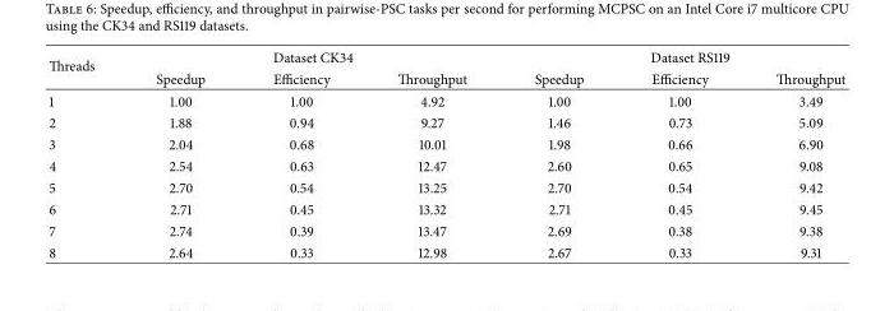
<table><thead><tr><td rowspan="2">Threads</td><td colspan="3">Dataset CK34</td><td colspan="3">Dataset RS119</td></tr><tr><td>Speedup</td><td>Efficiency</td><td>Throughput</td><td>Speedup</td><td>Efficiency</td><td>Throughput</td></tr></thead><tbody><tr><td>1</td><td>1.00</td><td>1.00</td><td>4.92</td><td>1.00</td><td>1.00</td><td>3.49</td></tr><tr><td>2</td><td>1.88</td><td>0.94</td><td>9.27</td><td>1.46</td><td>0.73</td><td>5.09</td></tr><tr><td>3</td><td>2.04</td><td>0.68</td><td>10.01</td><td>1.98</td><td>0.66</td><td>6.90</td></tr><tr><td>4</td><td>2.54</td><td>0.63</td><td>12.47</td><td>2.60</td><td>0.65</td><td>9.08</td></tr><tr><td>5</td><td>2.70</td><td>0.54</td><td>13.25</td><td>2.70</td><td>0.54</td><td>9.42</td></tr><tr><td>6</td><td>2.71</td><td>0.45</td><td>13.32</td><td>2.71</td><td>0.45</td><td>9.45</td></tr><tr><td>7</td><td>2.74</td><td>0.39</td><td>13.47</td><td>2.69</td><td>0.38</td><td>9.38</td></tr><tr><td>8</td><td>2.64</td><td>0.33</td><td>12.98</td><td>2.67</td><td>0.33</td><td>9.31</td></tr></tbody></table>